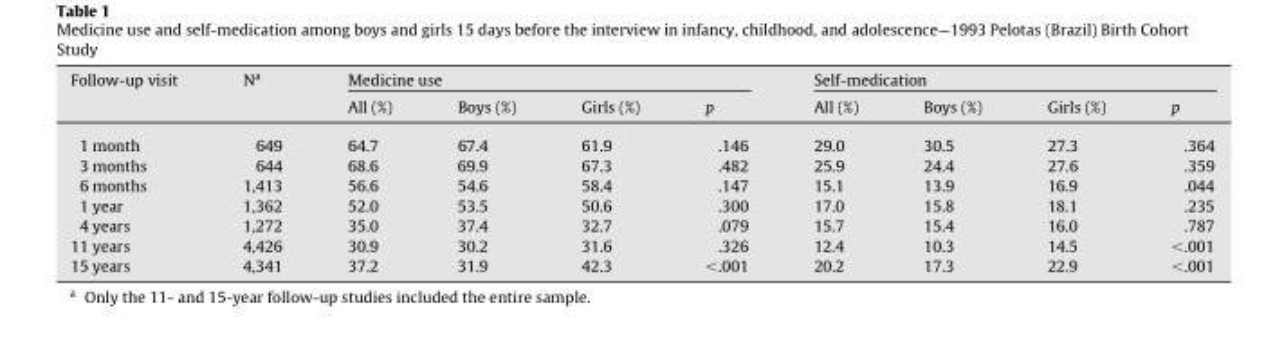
<table><thead><tr><td rowspan="2">Follow-up visit</td><td rowspan="2">N<sup>a</sup></td><td colspan="4">Medicine use</td><td colspan="4">Self-medication</td></tr><tr><td>All (%)</td><td>Boys (%)</td><td>Girls (%)</td><td>p</td><td>All (%)</td><td>Boys (%)</td><td>Girls (%)</td><td>p</td></tr></thead><tbody><tr><td>1 month</td><td>649</td><td>64.7</td><td>67.4</td><td>61.9</td><td>.146</td><td>29.0</td><td>30.5</td><td>27.3</td><td>.364</td></tr><tr><td>3 months</td><td>644</td><td>68.6</td><td>69.9</td><td>67.3</td><td>.482</td><td>25.9</td><td>24.4</td><td>27.6</td><td>.359</td></tr><tr><td>6 months</td><td>1,413</td><td>56.6</td><td>54.6</td><td>58.4</td><td>.147</td><td>15.1</td><td>13.9</td><td>16.9</td><td>.044</td></tr><tr><td>1 year</td><td>1,362</td><td>52.0</td><td>53.5</td><td>50.6</td><td>.300</td><td>17.0</td><td>15.8</td><td>18.1</td><td>.235</td></tr><tr><td>4 years</td><td>1,272</td><td>35.0</td><td>37.4</td><td>32.7</td><td>.079</td><td>15.7</td><td>15.4</td><td>16.0</td><td>.787</td></tr><tr><td>11 years</td><td>4,426</td><td>30.9</td><td>30.2</td><td>31.6</td><td>.326</td><td>12.4</td><td>10.3</td><td>14.5</td><td>&lt;.001</td></tr><tr><td>15 years</td><td>4,341</td><td>37.2</td><td>31.9</td><td>42.3</td><td>&lt;.001</td><td>20.2</td><td>17.3</td><td>22.9</td><td>&lt;.001</td></tr></tbody></table>